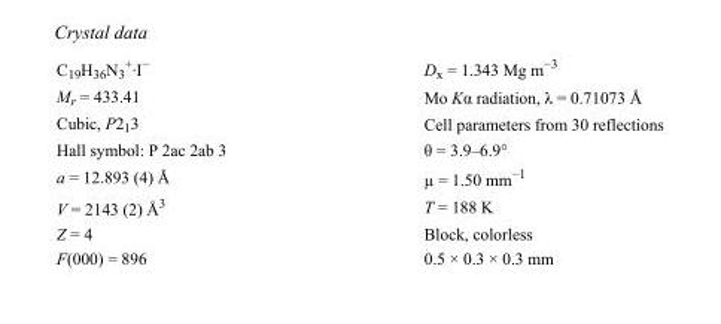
<table><tbody><tr><td>C<sub>19</sub>H<sub>36</sub>N<sub>3</sub> <sup>+</sup>·I<sup>−</sup></td><td>D<sub>x</sub> = 1.343 Mg m<sup>−3</sup></td></tr><tr><td>M<sub>r</sub> = 433.41</td><td>Mo Kα radiation, λ = 0.71073 Å</td></tr><tr><td>Cubic, P2<sub>1</sub>3</td><td>Cell parameters from 30 reflections</td></tr><tr><td>Hall symbol: P 2ac 2ab 3</td><td>θ = 3.9–6.9°</td></tr><tr><td>a = 12.893 (4) Å</td><td>µ = 1.50 mm<sup>−1</sup></td></tr><tr><td>V = 2143 (2) Å<sup>3</sup></td><td>T = 188 K</td></tr><tr><td>Z = 4</td><td>Block, colorless</td></tr><tr><td>F(000) = 896</td><td>0.5 × 0.3 × 0.3 mm</td></tr></tbody></table>